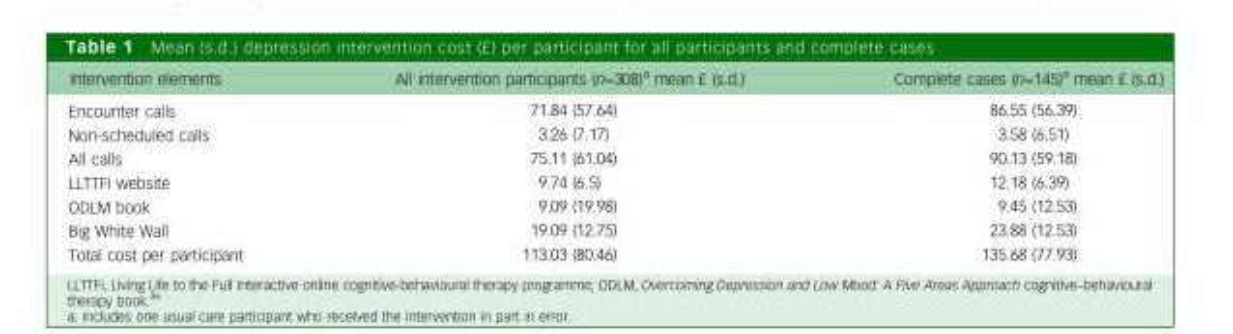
<table><thead><tr><td>Intervention elements</td><td>All intervention participants (n=308)<sup>a</sup> mean £ (s.d.)</td><td>Complete cases (n=145)<sup>a</sup> mean £ (s.d.)</td></tr></thead><tbody><tr><td>Encounter calls</td><td>71.84 (57.64)</td><td>86.55 (56.39)</td></tr><tr><td>Non-scheduled calls</td><td>3.26 (7.17)</td><td>3.58 (6.51)</td></tr><tr><td>All calls</td><td>75.11 (61.04)</td><td>90.13 (59.18)</td></tr><tr><td>LLTTFi website</td><td>9.74 (6.5)</td><td>12.18 (6.39)</td></tr><tr><td>ODLM book</td><td>9.09 (19.98)</td><td>9.45 (12.53)</td></tr><tr><td>Big White Wall</td><td>19.09 (12.75)</td><td>23.88 (12.53)</td></tr><tr><td>Total cost per participant</td><td>113.03 (80.46)</td><td>135.68 (77.93)</td></tr></tbody></table>